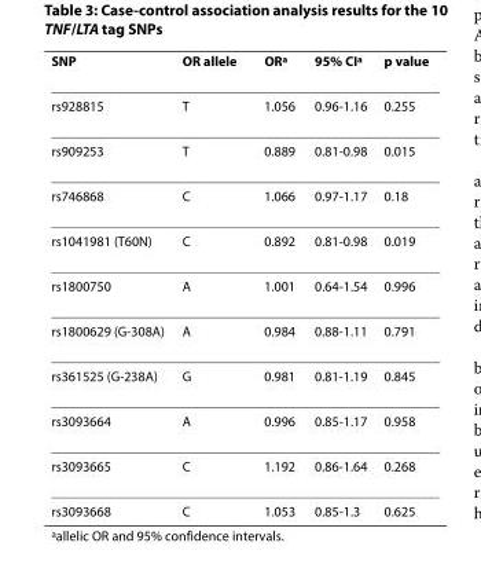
<table><thead><tr><td>SNP</td><td>OR allele</td><td>OR<sup>a</sup></td><td>95% CI<sup>a</sup></td><td>p value</td></tr></thead><tbody><tr><td>rs928815</td><td>T</td><td>1.056</td><td>0.96-1.16</td><td>0.255</td></tr><tr><td>rs909253</td><td>T</td><td>0.889</td><td>0.81-0.98</td><td>0.015</td></tr><tr><td>rs746868</td><td>C</td><td>1.066</td><td>0.97-1.17</td><td>0.18</td></tr><tr><td>rs1041981 (T60N)</td><td>C</td><td>0.892</td><td>0.81-0.98</td><td>0.019</td></tr><tr><td>rs1800750</td><td>A</td><td>1.001</td><td>0.64-1.54</td><td>0.996</td></tr><tr><td>rs1800629 (G-308A)</td><td>A</td><td>0.984</td><td>0.88-1.11</td><td>0.791</td></tr><tr><td>rs361525 (G-238A)</td><td>G</td><td>0.981</td><td>0.81-1.19</td><td>0.845</td></tr><tr><td>rs3093664</td><td>A</td><td>0.996</td><td>0.85-1.17</td><td>0.958</td></tr><tr><td>rs3093665</td><td>C</td><td>1.192</td><td>0.86-1.64</td><td>0.268</td></tr><tr><td>rs3093668</td><td>C</td><td>1.053</td><td>0.85-1.3</td><td>0.625</td></tr></tbody></table>